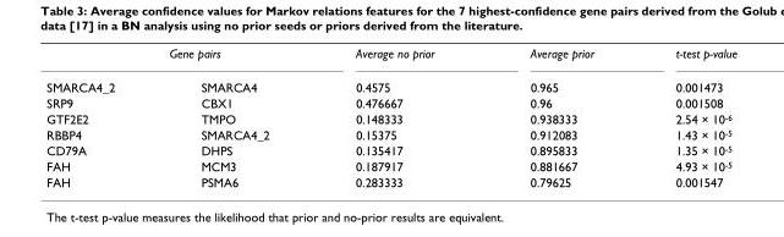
<table><tbody><tr><td colspan="2">Gene pairs</td><td>Average no prior</td><td>Average prior</td><td>t-test p-value</td></tr><tr><td>SMARCA4_2</td><td>SMARCA4</td><td>0.4575</td><td>0.965</td><td>0.001473</td></tr><tr><td>SRP9</td><td>CBX1</td><td>0.476667</td><td>0.96</td><td>0.001508</td></tr><tr><td>GTF2E2</td><td>TMPO</td><td>0.148333</td><td>0.938333</td><td>2.54 × 10<sup>-6</sup></td></tr><tr><td>RBBP4</td><td>SMARCA4_2</td><td>0.15375</td><td>0.912083</td><td>1.43 × 10<sup>-5</sup></td></tr><tr><td>CD79A</td><td>DHPS</td><td>0.135417</td><td>0.895833</td><td>1.35 × 10<sup>-5</sup></td></tr><tr><td>FAH</td><td>MCM3</td><td>0.187917</td><td>0.881667</td><td>4.93 × 10<sup>-5</sup></td></tr><tr><td>FAH</td><td>PSMA6</td><td>0.283333</td><td>0.79625</td><td>0.001547</td></tr></tbody></table>